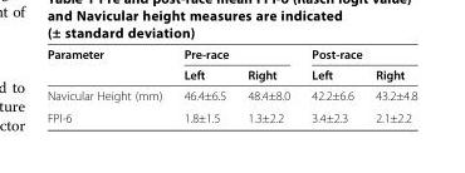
<table><thead><tr><td rowspan="2">Parameter</td><td colspan="2">Pre-race</td><td colspan="2">Post-race</td></tr><tr><td>Left</td><td>Right</td><td>Left</td><td>Right</td></tr></thead><tbody><tr><td>Navicular Height (mm)</td><td>46.4±6.5</td><td>48.4±8.0</td><td>42.2±6.6</td><td>43.2±4.8</td></tr><tr><td>FPI-6</td><td>1.8±1.5</td><td>1.3±2.2</td><td>3.4±2.3</td><td>2.1±2.2</td></tr></tbody></table>